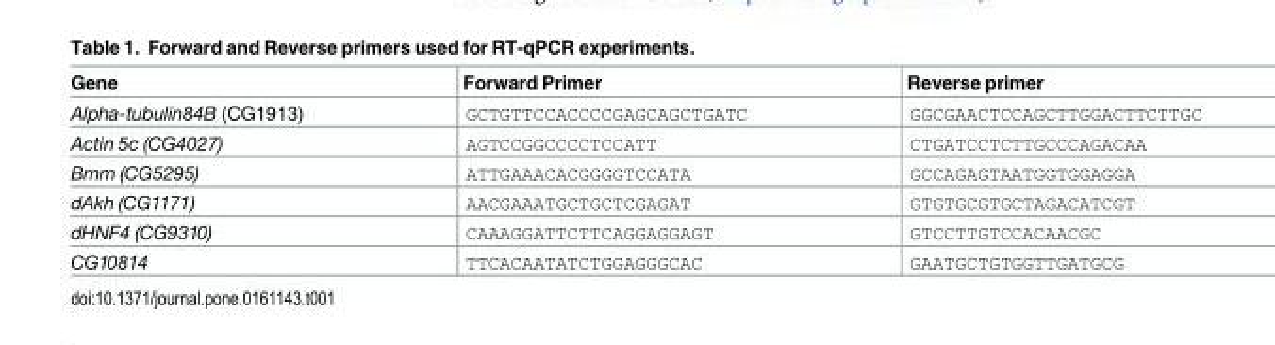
<table><thead><tr><td>Gene</td><td>Forward Primer</td><td>Reverse primer</td></tr></thead><tbody><tr><td>Alpha-tubulin84B (CG1913)</td><td>GCTGTTCCACCCCGAGCAGCTGATC</td><td>GGCGAACTCCAGCTTGGACTTCTTGC</td></tr><tr><td>Actin 5c (CG4027)</td><td>AGTCCGGCCCCTCCATT</td><td>CTGATCCTCTTGCCCAGACAA</td></tr><tr><td>Bmm (CG5295)</td><td>ATTGAAACACGGGGTCCATA</td><td>GCCAGAGTAATGGTGGAGGA</td></tr><tr><td>dAkh (CG1171)</td><td>AACGAAATGCTGCTCGAGAT</td><td>GTGTGCGTGCTAGACATCGT</td></tr><tr><td>dHNF4 (CG9310)</td><td>CAAAGGATTCTTCAGGAGGAGT</td><td>GTCCTTGTCCACAACGC</td></tr><tr><td>CG10814</td><td>TTCACAATATCTGGAGGGCAC</td><td>GAATGCTGTGGTTGATGCG</td></tr></tbody></table>